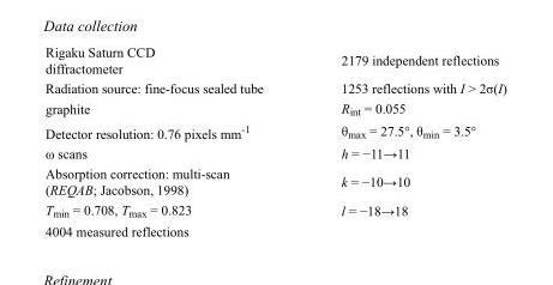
<table><tbody><tr><td>Rigaku Saturn CCD diffractometer</td><td>2179 independent reflections</td></tr><tr><td>Radiation source: fine-focus sealed tube</td><td>1253 reflections with I &gt; 2σ(I)</td></tr><tr><td>graphite</td><td>R<sub>int</sub> = 0.055</td></tr><tr><td>Detector resolution: 0.76 pixels mm<sup>-1</sup></td><td>θ<sub>max</sub> = 27.5°, θ<sub>min</sub> = 3.5°</td></tr><tr><td>ω scans</td><td>h = −11→11</td></tr><tr><td>Absorption correction: multi-scan (REQAB; Jacobson, 1998)</td><td>k = −10→10</td></tr><tr><td>T<sub>min</sub> = 0.708, T<sub>max</sub> = 0.823</td><td>l = −18→18</td></tr><tr><td>4004 measured reflections</td><td></td></tr></tbody></table>